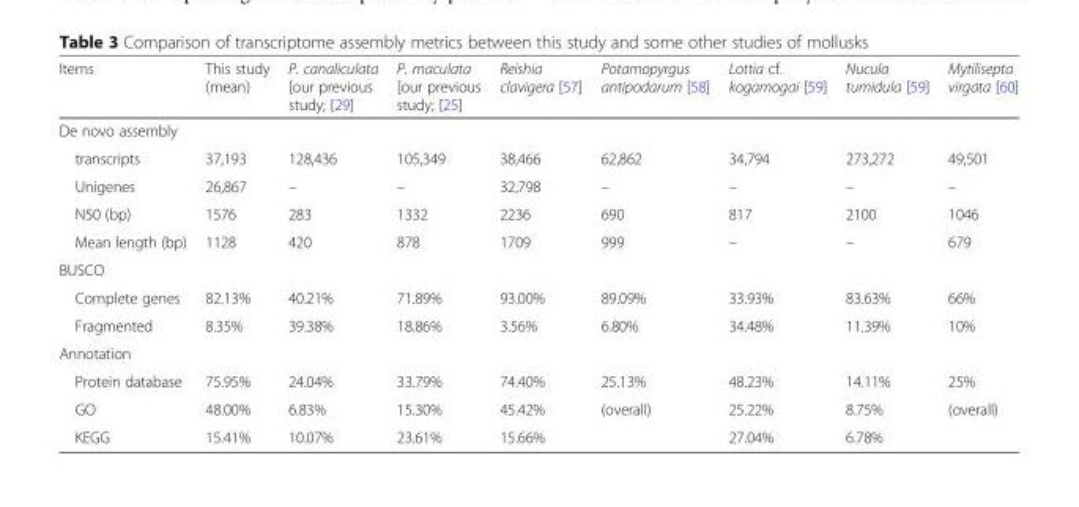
<table><thead><tr><td>Items</td><td>This study (mean)</td><td>P. canaliculata [our previous study; [29]</td><td>P. maculata [our previous study; [25]</td><td>Reishia clavigera [57]</td><td>Potamopyrgus antipodarum [58]</td><td>Lottia cf. kogamogai [59]</td><td>Nucula tumidula [59]</td><td>Mytilisepta virgata [60]</td></tr></thead><tbody><tr><td colspan="9">De novo assembly</td></tr><tr><td>transcripts</td><td>37,193</td><td>128,436</td><td>105,349</td><td>38,466</td><td>62,862</td><td>34,794</td><td>273,272</td><td>49,501</td></tr><tr><td>Unigenes</td><td>26,867</td><td>–</td><td>–</td><td>32,798</td><td>–</td><td>–</td><td>–</td><td>–</td></tr><tr><td>N50 (bp)</td><td>1576</td><td>283</td><td>1332</td><td>2236</td><td>690</td><td>817</td><td>2100</td><td>1046</td></tr><tr><td>Mean length (bp)</td><td>1128</td><td>420</td><td>878</td><td>1709</td><td>999</td><td>–</td><td>–</td><td>679</td></tr><tr><td colspan="9">BUSCO</td></tr><tr><td>Complete genes</td><td>82.13%</td><td>40.21%</td><td>71.89%</td><td>93.00%</td><td>89.09%</td><td>33.93%</td><td>83.63%</td><td>66%</td></tr><tr><td>Fragmented</td><td>8.35%</td><td>39.38%</td><td>18.86%</td><td>3.56%</td><td>6.80%</td><td>34.48%</td><td>11.39%</td><td>10%</td></tr><tr><td colspan="9">Annotation</td></tr><tr><td>Protein database</td><td>75.95%</td><td>24.04%</td><td>33.79%</td><td>74.40%</td><td>25.13%</td><td>48.23%</td><td>14.11%</td><td>25%</td></tr><tr><td>GO</td><td>48.00%</td><td>6.83%</td><td>15.30%</td><td>45.42%</td><td>(overall)</td><td>25.22%</td><td>8.75%</td><td>(overall)</td></tr><tr><td>KEGG</td><td>15.41%</td><td>10.07%</td><td>23.61%</td><td>15.66%</td><td></td><td>27.04%</td><td>6.78%</td><td></td></tr></tbody></table>